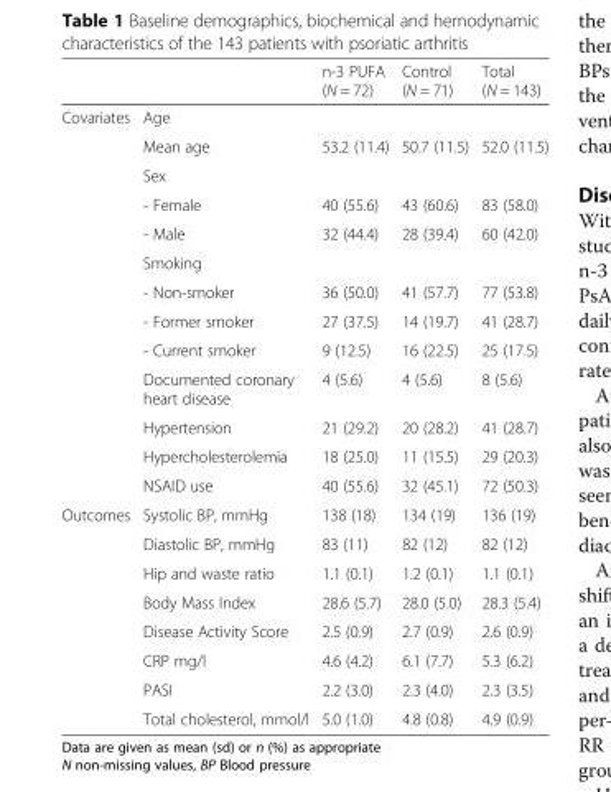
<table><thead><tr><td></td><td></td><td>n-3 PUFA (N = 72)</td><td>Control (N = 71)</td><td>Total (N = 143)</td></tr></thead><tbody><tr><td rowspan="13">Covariates</td><td>Age</td><td></td><td></td><td></td></tr><tr><td>Mean age</td><td>53.2 (11.4)</td><td>50.7 (11.5)</td><td>52.0 (11.5)</td></tr><tr><td>Sex</td><td></td><td></td><td></td></tr><tr><td>- Female</td><td>40 (55.6)</td><td>43 (60.6)</td><td>83 (58.0)</td></tr><tr><td>- Male</td><td>32 (44.4)</td><td>28 (39.4)</td><td>60 (42.0)</td></tr><tr><td>Smoking</td><td></td><td></td><td></td></tr><tr><td>- Non-smoker</td><td>36 (50.0)</td><td>41 (57.7)</td><td>77 (53.8)</td></tr><tr><td>- Former smoker</td><td>27 (37.5)</td><td>14 (19.7)</td><td>41 (28.7)</td></tr><tr><td>- Current smoker</td><td>9 (12.5)</td><td>16 (22.5)</td><td>25 (17.5)</td></tr><tr><td>Documented coronary heart disease</td><td>4 (5.6)</td><td>4 (5.6)</td><td>8 (5.6)</td></tr><tr><td>Hypertension</td><td>21 (29.2)</td><td>20 (28.2)</td><td>41 (28.7)</td></tr><tr><td>Hypercholesterolemia</td><td>18 (25.0)</td><td>11 (15.5)</td><td>29 (20.3)</td></tr><tr><td>NSAID use</td><td>40 (55.6)</td><td>32 (45.1)</td><td>72 (50.3)</td></tr><tr><td rowspan="8">Outcomes</td><td>Systolic BP, mmHg</td><td>138 (18)</td><td>134 (19)</td><td>136 (19)</td></tr><tr><td>Diastolic BP, mmHg</td><td>83 (11)</td><td>82 (12)</td><td>82 (12)</td></tr><tr><td>Hip and waste ratio</td><td>1.1 (0.1)</td><td>1.2 (0.1)</td><td>1.1 (0.1)</td></tr><tr><td>Body Mass Index</td><td>28.6 (5.7)</td><td>28.0 (5.0)</td><td>28.3 (5.4)</td></tr><tr><td>Disease Activity Score</td><td>2.5 (0.9)</td><td>2.7 (0.9)</td><td>2.6 (0.9)</td></tr><tr><td>CRP mg/l</td><td>4.6 (4.2)</td><td>6.1 (7.7)</td><td>5.3 (6.2)</td></tr><tr><td>PASI</td><td>2.2 (3.0)</td><td>2.3 (4.0)</td><td>2.3 (3.5)</td></tr><tr><td>Total cholesterol, mmol/l</td><td>5.0 (1.0)</td><td>4.8 (0.8)</td><td>4.9 (0.9)</td></tr></tbody></table>